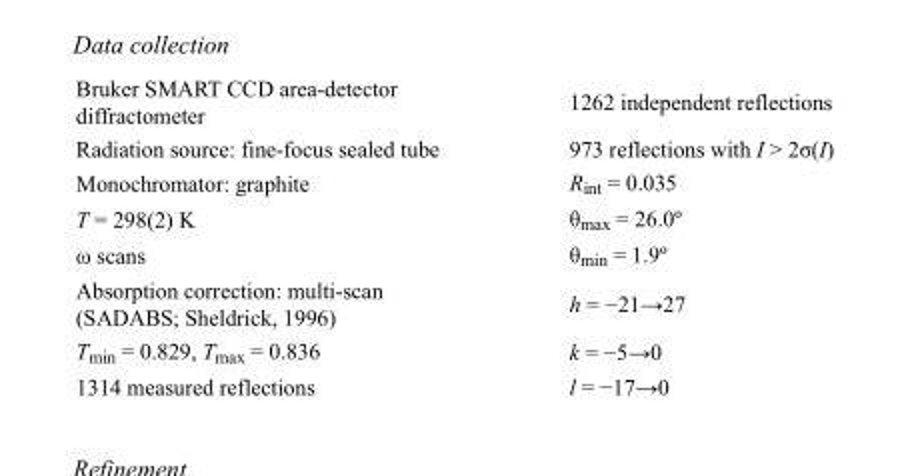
<table><tbody><tr><td>Bruker SMART CCD area-detector diffractometer</td><td>1262 independent reflections</td></tr><tr><td>Radiation source: fine-focus sealed tube</td><td>973 reflections with I &gt; 2σ(I)</td></tr><tr><td>Monochromator: graphite</td><td>R<sub>int</sub> = 0.035</td></tr><tr><td>T = 298(2) K</td><td>θ<sub>max</sub> = 26.0º</td></tr><tr><td>ω scans</td><td>θ<sub>min</sub> = 1.9º</td></tr><tr><td>Absorption correction: multi-scan (SADABS; Sheldrick, 1996)</td><td>h = −21→27</td></tr><tr><td>T<sub>min</sub> = 0.829, T<sub>max</sub> = 0.836</td><td>k = −5→0</td></tr><tr><td>1314 measured reflections</td><td>l = −17→0</td></tr></tbody></table>